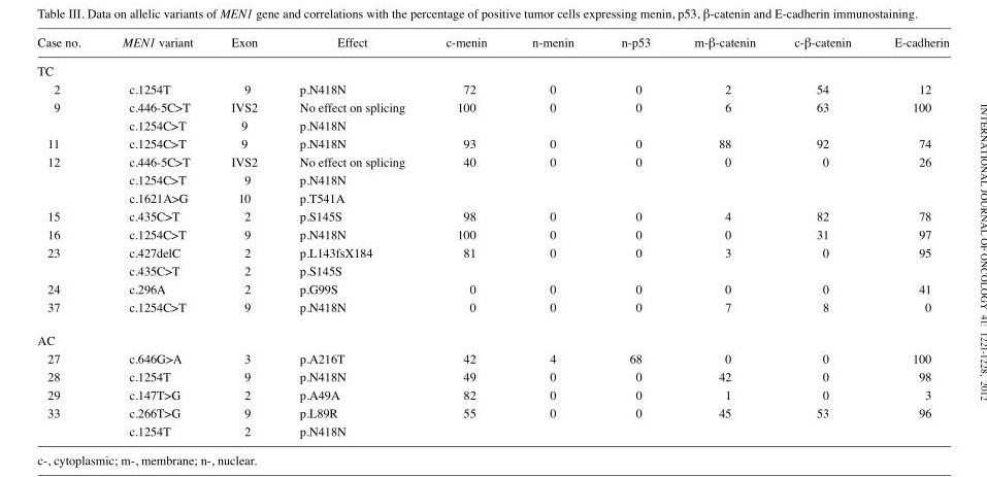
<table><thead><tr><td>Case no.</td><td>MEN1 variant</td><td>Exon</td><td>Effect</td><td>c-menin</td><td>n-menin</td><td>n-p53</td><td>m-β-catenin</td><td>c-β-catenin</td><td>E-cadherin</td></tr></thead><tbody><tr><td colspan="10">TC</td></tr><tr><td>2</td><td>c.1254T</td><td>9</td><td>p.N418N</td><td>72</td><td>0</td><td>0</td><td>2</td><td>54</td><td>12</td></tr><tr><td rowspan="2">9</td><td>c.446-5C&gt;T</td><td>IVS2</td><td>No effect on splicing</td><td>100</td><td>0</td><td>0</td><td>6</td><td>63</td><td>100</td></tr><tr><td>c.1254C&gt;T</td><td>9</td><td>p.N418N</td><td></td><td></td><td></td><td></td><td></td><td></td></tr><tr><td>11</td><td>c.1254C&gt;T</td><td>9</td><td>p.N418N</td><td>93</td><td>0</td><td>0</td><td>88</td><td>92</td><td>74</td></tr><tr><td rowspan="3">12</td><td>c.446-5C&gt;T</td><td>IVS2</td><td>No effect on splicing</td><td>40</td><td>0</td><td>0</td><td>0</td><td>0</td><td>26</td></tr><tr><td>c.1254C&gt;T</td><td>9</td><td>p.N418N</td><td></td><td></td><td></td><td></td><td></td><td></td></tr><tr><td>c.1621A&gt;G</td><td>10</td><td>p.T541A</td><td></td><td></td><td></td><td></td><td></td><td></td></tr><tr><td>15</td><td>c.435C&gt;T</td><td>2</td><td>p.S145S</td><td>98</td><td>0</td><td>0</td><td>4</td><td>82</td><td>78</td></tr><tr><td>16</td><td>c.1254C&gt;T</td><td>9</td><td>p.N418N</td><td>100</td><td>0</td><td>0</td><td>0</td><td>31</td><td>97</td></tr><tr><td rowspan="2">23</td><td>c.427delC</td><td>2</td><td>p.L143fsX184</td><td>81</td><td>0</td><td>0</td><td>3</td><td>0</td><td>95</td></tr><tr><td>c.435C&gt;T</td><td>2</td><td>p.S145S</td><td></td><td></td><td></td><td></td><td></td><td></td></tr><tr><td>24</td><td>c.296A</td><td>2</td><td>p.G99S</td><td>0</td><td>0</td><td>0</td><td>0</td><td>0</td><td>41</td></tr><tr><td>37</td><td>c.1254C&gt;T</td><td>9</td><td>p.N418N</td><td>0</td><td>0</td><td>0</td><td>7</td><td>8</td><td>0</td></tr><tr><td colspan="10">AC</td></tr><tr><td>27</td><td>c.646G&gt;A</td><td>3</td><td>p.A216T</td><td>42</td><td>4</td><td>68</td><td>0</td><td>0</td><td>100</td></tr><tr><td>28</td><td>c.1254T</td><td>9</td><td>p.N418N</td><td>49</td><td>0</td><td>0</td><td>42</td><td>0</td><td>98</td></tr><tr><td>29</td><td>c.147T&gt;G</td><td>2</td><td>p.A49A</td><td>82</td><td>0</td><td>0</td><td>1</td><td>0</td><td>3</td></tr><tr><td rowspan="2">33</td><td>c.266T&gt;G</td><td>9</td><td>p.L89R</td><td>55</td><td>0</td><td>0</td><td>45</td><td>53</td><td>96</td></tr><tr><td>c.1254T</td><td>2</td><td>p.N418N</td><td></td><td></td><td></td><td></td><td></td><td></td></tr></tbody></table>